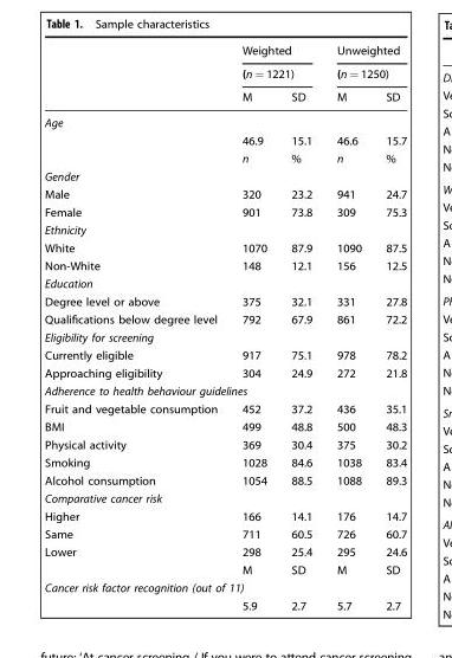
<table><thead><tr><td rowspan="3"></td><td rowspan="2" colspan="2">Weighted (n = 1221)</td><td rowspan="2" colspan="2">Unweighted (n = 1250)</td></tr><tr></tr><tr><td>M</td><td>SD</td><td>M</td><td>SD</td></tr></thead><tbody><tr><td colspan="5">Age</td></tr><tr><td></td><td>46.9</td><td>15.1</td><td>46.6</td><td>15.7</td></tr><tr><td></td><td>n</td><td>%</td><td>n</td><td>%</td></tr><tr><td colspan="5">Gender</td></tr><tr><td>Male</td><td>320</td><td>23.2</td><td>941</td><td>24.7</td></tr><tr><td>Female</td><td>901</td><td>73.8</td><td>309</td><td>75.3</td></tr><tr><td colspan="5">Ethnicity</td></tr><tr><td>White</td><td>1070</td><td>87.9</td><td>1090</td><td>87.5</td></tr><tr><td>Non-White</td><td>148</td><td>12.1</td><td>156</td><td>12.5</td></tr><tr><td colspan="5">Education</td></tr><tr><td>Degree level or above</td><td>375</td><td>32.1</td><td>331</td><td>27.8</td></tr><tr><td>Qualifications below degree level</td><td>792</td><td>67.9</td><td>861</td><td>72.2</td></tr><tr><td colspan="5">Eligibility for screening</td></tr><tr><td>Currently eligible</td><td>917</td><td>75.1</td><td>978</td><td>78.2</td></tr><tr><td>Approaching eligibility</td><td>304</td><td>24.9</td><td>272</td><td>21.8</td></tr><tr><td colspan="5">Adherence to health behaviour guidelines</td></tr><tr><td>Fruit and vegetable consumption</td><td>452</td><td>37.2</td><td>436</td><td>35.1</td></tr><tr><td>BMI</td><td>499</td><td>48.8</td><td>500</td><td>48.3</td></tr><tr><td>Physical activity</td><td>369</td><td>30.4</td><td>375</td><td>30.2</td></tr><tr><td>Smoking</td><td>1028</td><td>84.6</td><td>1038</td><td>83.4</td></tr><tr><td>Alcohol consumption</td><td>1054</td><td>88.5</td><td>1088</td><td>89.3</td></tr><tr><td colspan="5">Comparative cancer risk</td></tr><tr><td>Higher</td><td>166</td><td>14.1</td><td>176</td><td>14.7</td></tr><tr><td>Same</td><td>711</td><td>60.5</td><td>726</td><td>60.7</td></tr><tr><td rowspan="2">Lower</td><td>298</td><td>25.4</td><td>295</td><td>24.6</td></tr><tr><td>M</td><td>SD</td><td>M</td><td>SD</td></tr><tr><td colspan="5">Cancer risk factor recognition (out of 11)</td></tr><tr><td></td><td>5.9</td><td>2.7</td><td>5.7</td><td>2.7</td></tr></tbody></table>